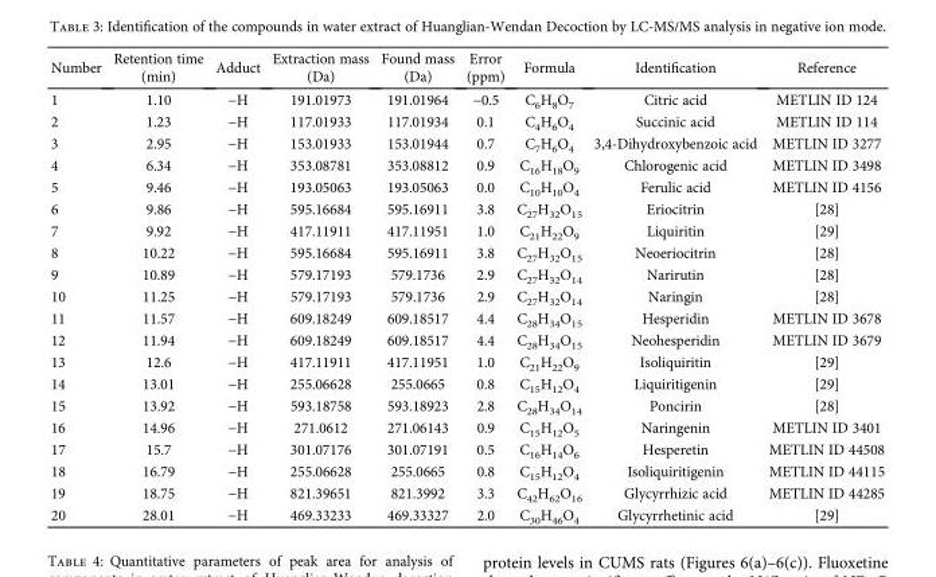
<table><thead><tr><td>Number</td><td>Retention time (min)</td><td>Adduct</td><td>Extraction mass (Da)</td><td>Found mass (Da)</td><td>Error (ppm)</td><td>Formula</td><td>Identification</td><td>Reference</td></tr></thead><tbody><tr><td>1</td><td>1.10</td><td>−H</td><td>191.01973</td><td>191.01964</td><td>−0.5</td><td>C<sub>6</sub>H<sub>8</sub>O<sub>7</sub></td><td>Citric acid</td><td>METLIN ID 124</td></tr><tr><td>2</td><td>1.23</td><td>−H</td><td>117.01933</td><td>117.01934</td><td>0.1</td><td>C<sub>4</sub>H<sub>6</sub>O<sub>4</sub></td><td>Succinic acid</td><td>METLIN ID 114</td></tr><tr><td>3</td><td>2.95</td><td>−H</td><td>153.01933</td><td>153.01944</td><td>0.7</td><td>C<sub>7</sub>H<sub>6</sub>O<sub>4</sub></td><td>3,4-Dihydroxybenzoic acid</td><td>METLIN ID 3277</td></tr><tr><td>4</td><td>6.34</td><td>−H</td><td>353.08781</td><td>353.08812</td><td>0.9</td><td>C<sub>16</sub>H<sub>18</sub>O<sub>9</sub></td><td>Chlorogenic acid</td><td>METLIN ID 3498</td></tr><tr><td>5</td><td>9.46</td><td>−H</td><td>193.05063</td><td>193.05063</td><td>0.0</td><td>C<sub>10</sub>H<sub>10</sub>O<sub>4</sub></td><td>Ferulic acid</td><td>METLIN ID 4156</td></tr><tr><td>6</td><td>9.86</td><td>−H</td><td>595.16684</td><td>595.16911</td><td>3.8</td><td>C<sub>27</sub>H<sub>32</sub>O<sub>15</sub></td><td>Eriocitrin</td><td>[28]</td></tr><tr><td>7</td><td>9.92</td><td>−H</td><td>417.11911</td><td>417.11951</td><td>1.0</td><td>C<sub>21</sub>H<sub>22</sub>O<sub>9</sub></td><td>Liquiritin</td><td>[29]</td></tr><tr><td>8</td><td>10.22</td><td>−H</td><td>595.16684</td><td>595.16911</td><td>3.8</td><td>C<sub>27</sub>H<sub>32</sub>O<sub>15</sub></td><td>Neoeriocitrin</td><td>[28]</td></tr><tr><td>9</td><td>10.89</td><td>−H</td><td>579.17193</td><td>579.1736</td><td>2.9</td><td>C<sub>27</sub>H<sub>32</sub>O<sub>14</sub></td><td>Narirutin</td><td>[28]</td></tr><tr><td>10</td><td>11.25</td><td>−H</td><td>579.17193</td><td>579.1736</td><td>2.9</td><td>C<sub>27</sub>H<sub>32</sub>O<sub>14</sub></td><td>Naringin</td><td>[28]</td></tr><tr><td>11</td><td>11.57</td><td>−H</td><td>609.18249</td><td>609.18517</td><td>4.4</td><td>C<sub>28</sub>H<sub>34</sub>O<sub>15</sub></td><td>Hesperidin</td><td>METLIN ID 3678</td></tr><tr><td>12</td><td>11.94</td><td>−H</td><td>609.18249</td><td>609.18517</td><td>4.4</td><td>C<sub>28</sub>H<sub>34</sub>O<sub>15</sub></td><td>Neohesperidin</td><td>METLIN ID 3679</td></tr><tr><td>13</td><td>12.6</td><td>−H</td><td>417.11911</td><td>417.11951</td><td>1.0</td><td>C<sub>21</sub>H<sub>22</sub>O<sub>9</sub></td><td>Isoliquiritin</td><td>[29]</td></tr><tr><td>14</td><td>13.01</td><td>−H</td><td>255.06628</td><td>255.0665</td><td>0.8</td><td>C<sub>15</sub>H<sub>12</sub>O<sub>4</sub></td><td>Liquiritigenin</td><td>[29]</td></tr><tr><td>15</td><td>13.92</td><td>−H</td><td>593.18758</td><td>593.18923</td><td>2.8</td><td>C<sub>28</sub>H<sub>34</sub>O<sub>14</sub></td><td>Poncirin</td><td>[28]</td></tr><tr><td>16</td><td>14.96</td><td>−H</td><td>271.0612</td><td>271.06143</td><td>0.9</td><td>C<sub>15</sub>H<sub>12</sub>O<sub>5</sub></td><td>Naringenin</td><td>METLIN ID 3401</td></tr><tr><td>17</td><td>15.7</td><td>−H</td><td>301.07176</td><td>301.07191</td><td>0.5</td><td>C<sub>16</sub>H<sub>14</sub>O<sub>6</sub></td><td>Hesperetin</td><td>METLIN ID 44508</td></tr><tr><td>18</td><td>16.79</td><td>−H</td><td>255.06628</td><td>255.0665</td><td>0.8</td><td>C<sub>15</sub>H<sub>12</sub>O<sub>4</sub></td><td>Isoliquiritigenin</td><td>METLIN ID 44115</td></tr><tr><td>19</td><td>18.75</td><td>−H</td><td>821.39651</td><td>821.3992</td><td>3.3</td><td>C<sub>42</sub>H<sub>62</sub>O<sub>16</sub></td><td>Glycyrrhizic acid</td><td>METLIN ID 44285</td></tr><tr><td>20</td><td>28.01</td><td>−H</td><td>469.33233</td><td>469.33327</td><td>2.0</td><td>C<sub>30</sub>H<sub>46</sub>O<sub>4</sub></td><td>Glycyrrhetinic acid</td><td>[29]</td></tr></tbody></table>